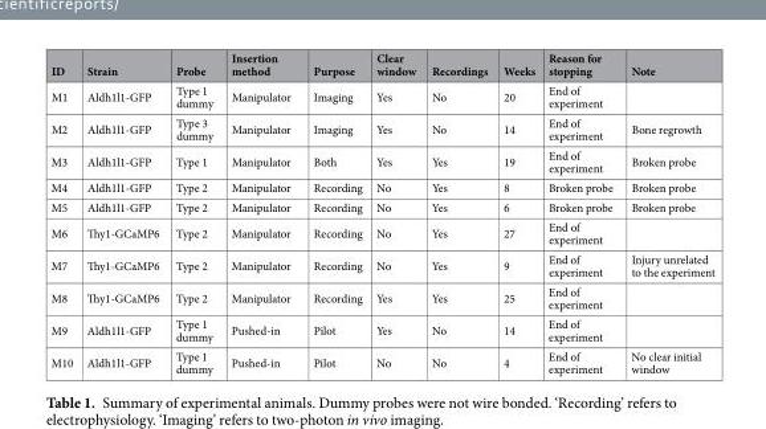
<table><thead><tr><td>ID</td><td>Strain</td><td>Probe</td><td>Insertion method</td><td>Purpose</td><td>Clear window</td><td>Recordings</td><td>Weeks</td><td>Reason for stopping</td><td>Note</td></tr></thead><tbody><tr><td>M1</td><td>Aldh1l1-GFP</td><td>Type 1 dummy</td><td>Manipulator</td><td>Imaging</td><td>Yes</td><td>No</td><td>20</td><td>End of experiment</td><td></td></tr><tr><td>M2</td><td>Aldh1l1-GFP</td><td>Type 3 dummy</td><td>Manipulator</td><td>Imaging</td><td>Yes</td><td>No</td><td>14</td><td>End of experiment</td><td>Bone regrowth</td></tr><tr><td>M3</td><td>Aldh1l1-GFP</td><td>Type 1</td><td>Manipulator</td><td>Both</td><td>Yes</td><td>Yes</td><td>19</td><td>End of experiment</td><td>Broken probe</td></tr><tr><td>M4</td><td>Aldh1l1-GFP</td><td>Type 2</td><td>Manipulator</td><td>Recording</td><td>No</td><td>Yes</td><td>8</td><td>Broken probe</td><td>Broken probe</td></tr><tr><td>M5</td><td>Aldh1l1-GFP</td><td>Type 2</td><td>Manipulator</td><td>Recording</td><td>No</td><td>Yes</td><td>6</td><td>Broken probe</td><td>Broken probe</td></tr><tr><td>M6</td><td>Thy1-GCaMP6</td><td>Type 2</td><td>Manipulator</td><td>Recording</td><td>No</td><td>Yes</td><td>27</td><td>End of experiment</td><td></td></tr><tr><td>M7</td><td>Thy1-GCaMP6</td><td>Type 2</td><td>Manipulator</td><td>Recording</td><td>No</td><td>Yes</td><td>9</td><td>End of experiment</td><td>Injury unrelated to the experiment</td></tr><tr><td>M8</td><td>Thy1-GCaMP6</td><td>Type 2</td><td>Manipulator</td><td>Recording</td><td>Yes</td><td>Yes</td><td>25</td><td>End of experiment</td><td></td></tr><tr><td>M9</td><td>Aldh1l1-GFP</td><td>Type 1 dummy</td><td>Pushed-in</td><td>Pilot</td><td>Yes</td><td>No</td><td>14</td><td>End of experiment</td><td></td></tr><tr><td>M10</td><td>Aldh1l1-GFP</td><td>Type 1 dummy</td><td>Pushed-in</td><td>Pilot</td><td>No</td><td>No</td><td>4</td><td>End of experiment</td><td>No clear initial window</td></tr></tbody></table>